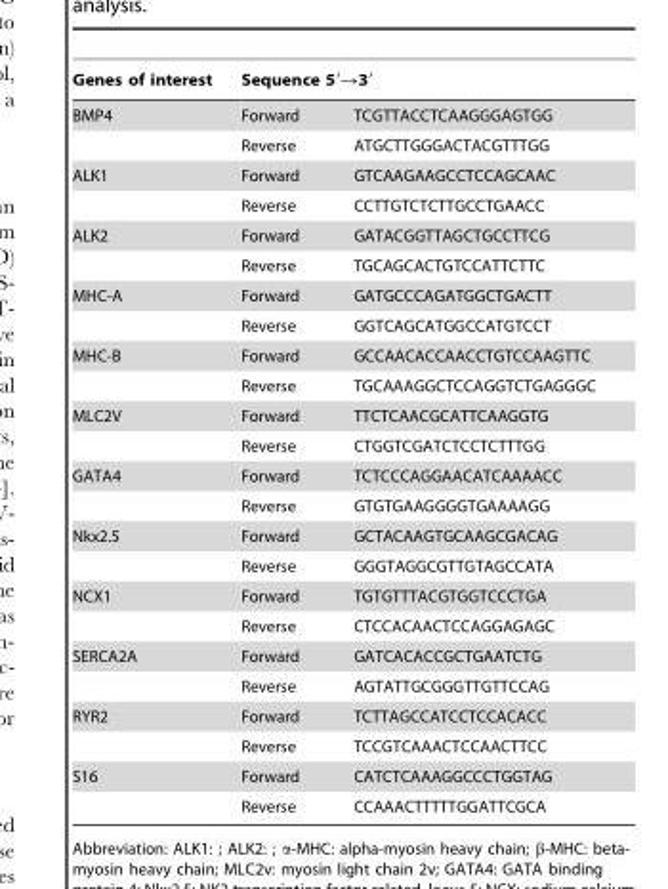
<table><thead><tr><td rowspan="2">Genes of interest BMP4</td><td colspan="2">Sequence 5′→3′</td></tr><tr><td>Forward</td><td>TCGTTACCTCAAGGGAGTGG</td></tr></thead><tbody><tr><td></td><td>Reverse</td><td>ATGCTTGGGACTACGTTTGG</td></tr><tr><td rowspan="2">ALK1</td><td>Forward</td><td>GTCAAGAAGCCTCCAGCAAC</td></tr><tr><td>Reverse</td><td>CCTTGTCTCTTGCCTGAACC</td></tr><tr><td rowspan="2">ALK2</td><td>Forward</td><td>GATACGGTTAGCTGCCTTCG</td></tr><tr><td>Reverse</td><td>TGCAGCACTGTCCATTCTTC</td></tr><tr><td rowspan="2">MHC-A</td><td>Forward</td><td>GATGCCCAGATGGCTGACTT</td></tr><tr><td>Reverse</td><td>GGTCAGCATGGCCATGTCCT</td></tr><tr><td rowspan="2">MHC-B</td><td>Forward</td><td>GCCAACACCAACCTGTCCAAGTTC</td></tr><tr><td>Reverse</td><td>TGCAAAGGCTCCAGGTCTGAGGGC</td></tr><tr><td rowspan="2">MLC2V</td><td>Forward</td><td>TTCTCAACGCATTCAAGGTG</td></tr><tr><td>Reverse</td><td>CTGGTCGATCTCCTCTTTGG</td></tr><tr><td rowspan="2">GATA4</td><td>Forward</td><td>TCTCCCAGGAACATCAAAACC</td></tr><tr><td>Reverse</td><td>GTGTGAAGGGGTGAAAAGG</td></tr><tr><td rowspan="2">Nkx2.5</td><td>Forward</td><td>GCTACAAGTGCAAGCGACAG</td></tr><tr><td>Reverse</td><td>GGGTAGGCGTTGTAGCCATA</td></tr><tr><td rowspan="2">NCX1</td><td>Forward</td><td>TGTGTTTACGTGGTCCCTGA</td></tr><tr><td>Reverse</td><td>CTCCACAACTCCAGGAGAGC</td></tr><tr><td rowspan="2">SERCA2A</td><td>Forward</td><td>GATCACACCGCTGAATCTG</td></tr><tr><td>Reverse</td><td>AGTATTGCGGGTTGTTCCAG</td></tr><tr><td rowspan="2">RYR2</td><td>Forward</td><td>TCTTAGCCATCCTCCACACC</td></tr><tr><td>Reverse</td><td>TCCGTCAAACTCCAACTTCC</td></tr><tr><td rowspan="2">S16</td><td>Forward</td><td>CATCTCAAAGGCCCTGGTAG</td></tr><tr><td>Reverse</td><td>CCAAACTTTTTGGATTCGCA</td></tr></tbody></table>